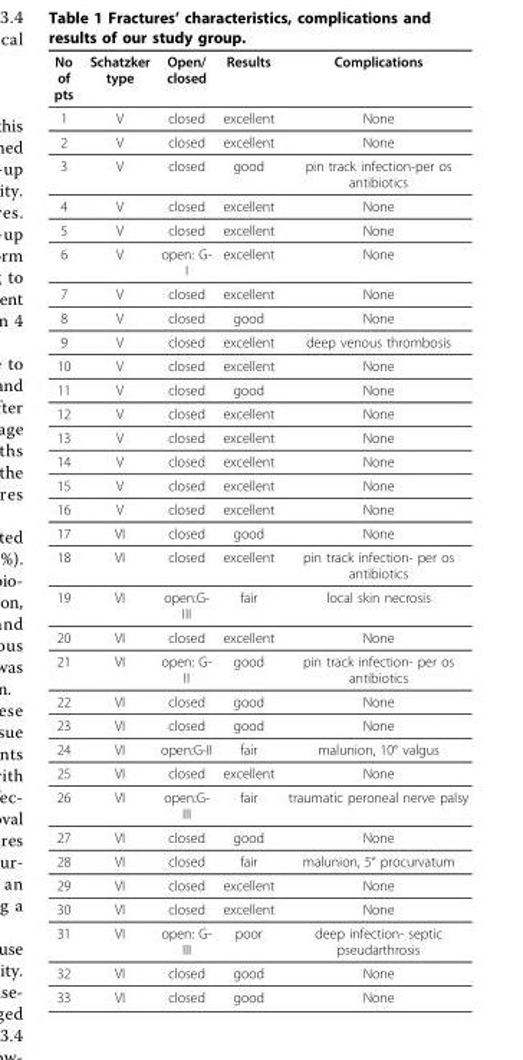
<table><thead><tr><td>No of pts</td><td>Schatzker type</td><td>Open/ closed</td><td>Results</td><td>Complications</td></tr></thead><tbody><tr><td>1</td><td>V</td><td>closed</td><td>excellent</td><td>None</td></tr><tr><td>2</td><td>V</td><td>closed</td><td>excellent</td><td>None</td></tr><tr><td>3</td><td>V</td><td>closed</td><td>good</td><td>pin track infection-per os antibiotics</td></tr><tr><td>4</td><td>V</td><td>closed</td><td>excellent</td><td>None</td></tr><tr><td>5</td><td>V</td><td>closed</td><td>excellent</td><td>None</td></tr><tr><td>6</td><td>V</td><td>open: G- I</td><td>excellent</td><td>None</td></tr><tr><td>7</td><td>V</td><td>closed</td><td>excellent</td><td>None</td></tr><tr><td>8</td><td>V</td><td>closed</td><td>good</td><td>None</td></tr><tr><td>9</td><td>V</td><td>closed</td><td>excellent</td><td>deep venous thrombosis</td></tr><tr><td>10</td><td>V</td><td>closed</td><td>excellent</td><td>None</td></tr><tr><td>11</td><td>V</td><td>closed</td><td>good</td><td>None</td></tr><tr><td>12</td><td>V</td><td>closed</td><td>excellent</td><td>None</td></tr><tr><td>13</td><td>V</td><td>closed</td><td>excellent</td><td>None</td></tr><tr><td>14</td><td>V</td><td>closed</td><td>excellent</td><td>None</td></tr><tr><td>15</td><td>V</td><td>closed</td><td>excellent</td><td>None</td></tr><tr><td>16</td><td>V</td><td>closed</td><td>excellent</td><td>None</td></tr><tr><td>17</td><td>VI</td><td>closed</td><td>good</td><td>None</td></tr><tr><td>18</td><td>VI</td><td>closed</td><td>excellent</td><td>pin track infection- per os antibiotics</td></tr><tr><td>19</td><td>VI</td><td>open:G- III</td><td>fair</td><td>local skin necrosis</td></tr><tr><td>20</td><td>VI</td><td>closed</td><td>excellent</td><td>None</td></tr><tr><td>21</td><td>VI</td><td>open: G- II</td><td>good</td><td>pin track infection- per os antibiotics</td></tr><tr><td>22</td><td>VI</td><td>closed</td><td>good</td><td>None</td></tr><tr><td>23</td><td>VI</td><td>closed</td><td>good</td><td>None</td></tr><tr><td>24</td><td>VI</td><td>open:G-II</td><td>fair</td><td>malunion, 10° valgus</td></tr><tr><td>25</td><td>VI</td><td>closed</td><td>excellent</td><td>None</td></tr><tr><td>26</td><td>VI</td><td>open:G- III</td><td>fair</td><td>traumatic peroneal nerve palsy</td></tr><tr><td>27</td><td>VI</td><td>closed</td><td>good</td><td>None</td></tr><tr><td>28</td><td>VI</td><td>closed</td><td>fair</td><td>malunion, 5° procurvatum</td></tr><tr><td>29</td><td>VI</td><td>closed</td><td>excellent</td><td>None</td></tr><tr><td>30</td><td>VI</td><td>closed</td><td>excellent</td><td>None</td></tr><tr><td>31</td><td>VI</td><td>open: G- III</td><td>poor</td><td>deep infection- septic pseudarthrosis</td></tr><tr><td>32</td><td>VI</td><td>closed</td><td>good</td><td>None</td></tr><tr><td>33</td><td>VI</td><td>closed</td><td>good</td><td>None</td></tr></tbody></table>